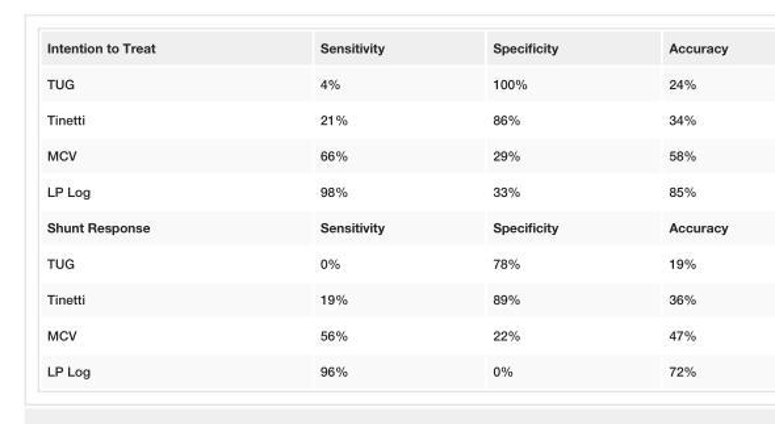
<table><tbody><tr><td>Intention to Treat</td><td>Sensitivity</td><td>Specificity</td><td>Accuracy</td></tr><tr><td>TUG</td><td>4%</td><td>100%</td><td>24%</td></tr><tr><td>Tinetti</td><td>21%</td><td>86%</td><td>34%</td></tr><tr><td>MCV</td><td>66%</td><td>29%</td><td>58%</td></tr><tr><td>LP Log</td><td>98%</td><td>33%</td><td>85%</td></tr><tr><td>Shunt Response</td><td>Sensitivity</td><td>Specificity</td><td>Accuracy</td></tr><tr><td>TUG</td><td>0%</td><td>78%</td><td>19%</td></tr><tr><td>Tinetti</td><td>19%</td><td>89%</td><td>36%</td></tr><tr><td>MCV</td><td>56%</td><td>22%</td><td>47%</td></tr><tr><td>LP Log</td><td>96%</td><td>0%</td><td>72%</td></tr></tbody></table>